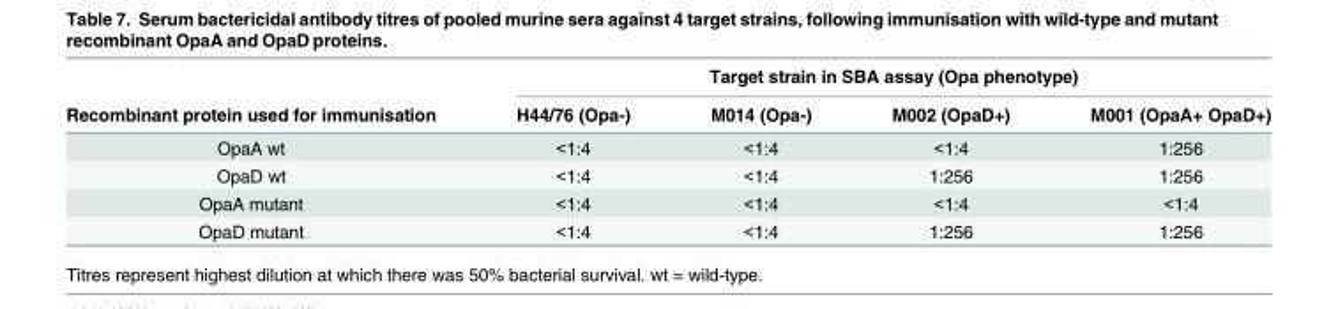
<table><thead><tr><td rowspan="2">Recombinant protein used for immunisation</td><td colspan="4">Target strain in SBA assay (Opa phenotype)</td></tr><tr><td>H44/76 (Opa-)</td><td>M014 (Opa-)</td><td>M002 (OpaD+)</td><td>M001 (OpaA+ OpaD+)</td></tr></thead><tbody><tr><td>OpaA wt</td><td>&lt;1:4</td><td>&lt;1:4</td><td>&lt;1:4</td><td>1:256</td></tr><tr><td>OpaD wt</td><td>&lt;1:4</td><td>&lt;1:4</td><td>1:256</td><td>1:256</td></tr><tr><td>OpaA mutant</td><td>&lt;1:4</td><td>&lt;1:4</td><td>&lt;1:4</td><td>&lt;1:4</td></tr><tr><td>OpaD mutant</td><td>&lt;1:4</td><td>&lt;1:4</td><td>1:256</td><td>1:256</td></tr></tbody></table>